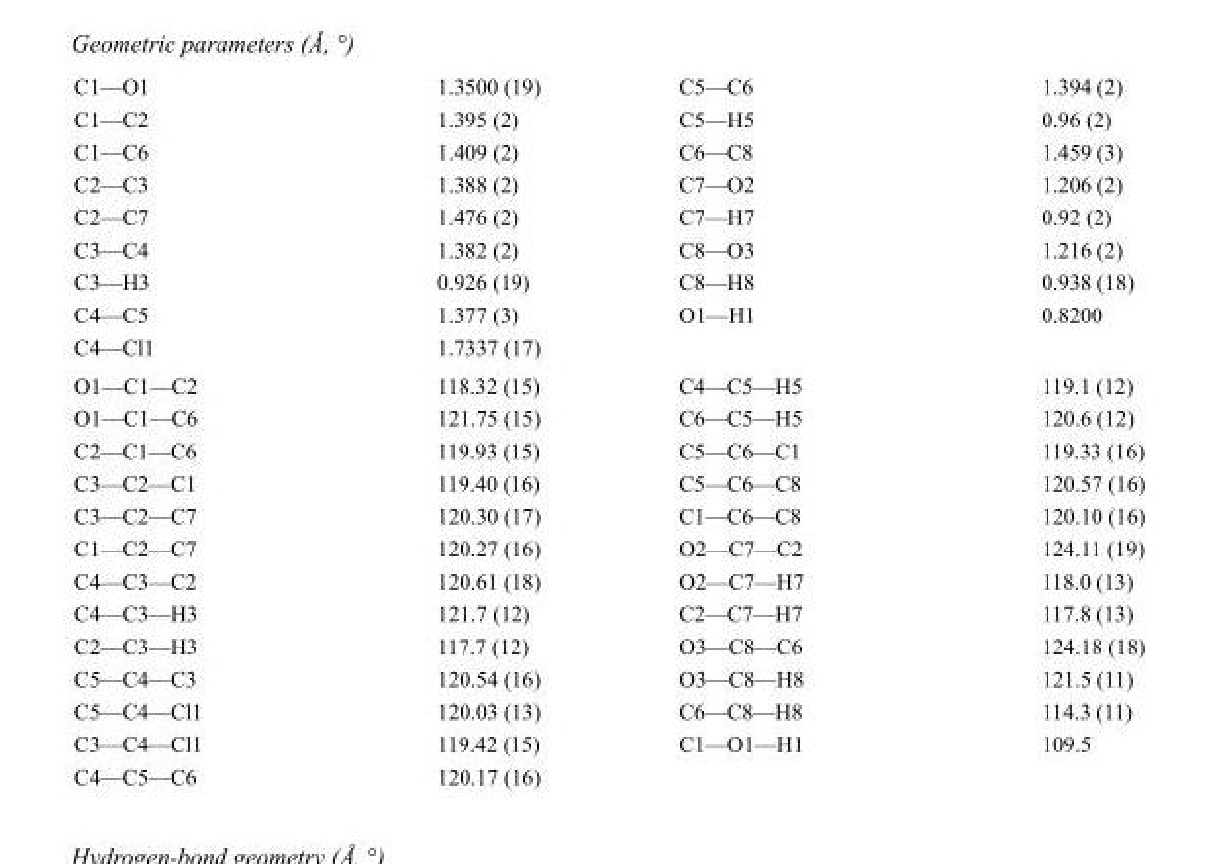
<table><tbody><tr><td>C1—O1</td><td>1.3500 (19)</td><td>C5—C6</td><td>1.394 (2)</td></tr><tr><td>C1—C2</td><td>1.395 (2)</td><td>C5—H5</td><td>0.96 (2)</td></tr><tr><td>C1—C6</td><td>1.409 (2)</td><td>C6—C8</td><td>1.459 (3)</td></tr><tr><td>C2—C3</td><td>1.388 (2)</td><td>C7—O2</td><td>1.206 (2)</td></tr><tr><td>C2—C7</td><td>1.476 (2)</td><td>C7—H7</td><td>0.92 (2)</td></tr><tr><td>C3—C4</td><td>1.382 (2)</td><td>C8—O3</td><td>1.216 (2)</td></tr><tr><td>C3—H3</td><td>0.926 (19)</td><td>C8—H8</td><td>0.938 (18)</td></tr><tr><td>C4—C5</td><td>1.377 (3)</td><td>O1—H1</td><td>0.8200</td></tr><tr><td>C4—Cl1</td><td>1.7337 (17)</td><td></td><td></td></tr><tr><td>O1—C1—C2</td><td>118.32 (15)</td><td>C4—C5—H5</td><td>119.1 (12)</td></tr><tr><td>O1—C1—C6</td><td>121.75 (15)</td><td>C6—C5—H5</td><td>120.6 (12)</td></tr><tr><td>C2—C1—C6</td><td>119.93 (15)</td><td>C5—C6—C1</td><td>119.33 (16)</td></tr><tr><td>C3—C2—C1</td><td>119.40 (16)</td><td>C5—C6—C8</td><td>120.57 (16)</td></tr><tr><td>C3—C2—C7</td><td>120.30 (17)</td><td>C1—C6—C8</td><td>120.10 (16)</td></tr><tr><td>C1—C2—C7</td><td>120.27 (16)</td><td>O2—C7—C2</td><td>124.11 (19)</td></tr><tr><td>C4—C3—C2</td><td>120.61 (18)</td><td>O2—C7—H7</td><td>118.0 (13)</td></tr><tr><td>C4—C3—H3</td><td>121.7 (12)</td><td>C2—C7—H7</td><td>117.8 (13)</td></tr><tr><td>C2—C3—H3</td><td>117.7 (12)</td><td>O3—C8—C6</td><td>124.18 (18)</td></tr><tr><td>C5—C4—C3</td><td>120.54 (16)</td><td>O3—C8—H8</td><td>121.5 (11)</td></tr><tr><td>C5—C4—Cl1</td><td>120.03 (13)</td><td>C6—C8—H8</td><td>114.3 (11)</td></tr><tr><td>C3—C4—Cl1</td><td>119.42 (15)</td><td>C1—O1—H1</td><td>109.5</td></tr><tr><td>C4—C5—C6</td><td>120.17 (16)</td><td></td><td></td></tr></tbody></table>